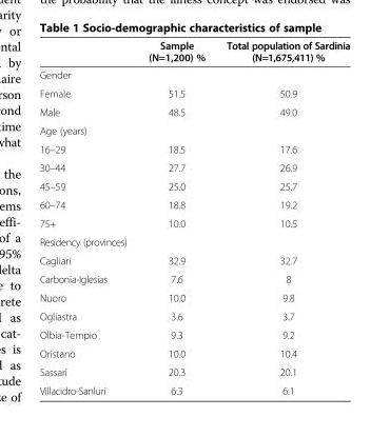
<table><thead><tr><td></td><td>Sample (N=1,200) %</td><td>Total population of Sardinia (N=1,675,411) %</td></tr></thead><tbody><tr><td colspan="3">Gender</td></tr><tr><td>Female</td><td>51.5</td><td>50.9</td></tr><tr><td>Male</td><td>48.5</td><td>49.0</td></tr><tr><td colspan="3">Age (years)</td></tr><tr><td>16–29</td><td>18.5</td><td>17.6</td></tr><tr><td>30–44</td><td>27.7</td><td>26.9</td></tr><tr><td>45–59</td><td>25.0</td><td>25.7</td></tr><tr><td>60–74</td><td>18.8</td><td>19.2</td></tr><tr><td>75+</td><td>10.0</td><td>10.5</td></tr><tr><td colspan="3">Residency (provinces)</td></tr><tr><td>Cagliari</td><td>32.9</td><td>32.7</td></tr><tr><td>Carbonia-Iglesias</td><td>7.6</td><td>8</td></tr><tr><td>Nuoro</td><td>10.0</td><td>9.8</td></tr><tr><td>Ogliastra</td><td>3.6</td><td>3.7</td></tr><tr><td>Olbia-Tempio</td><td>9.3</td><td>9.2</td></tr><tr><td>Oristano</td><td>10.0</td><td>10.4</td></tr><tr><td>Sassari</td><td>20.3</td><td>20.1</td></tr><tr><td>Villacidro-Sanluri</td><td>6.3</td><td>6.1</td></tr></tbody></table>